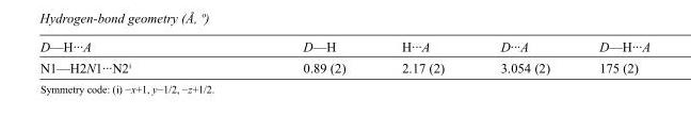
<table><tbody><tr><td>D—H···A</td><td>D—H</td><td>H···A</td><td>D···A</td><td>D—H···A</td></tr><tr><td>N1—H2N1···N2<sup>i</sup></td><td>0.89 (2)</td><td>2.17 (2)</td><td>3.054 (2)</td><td>175 (2)</td></tr></tbody></table>